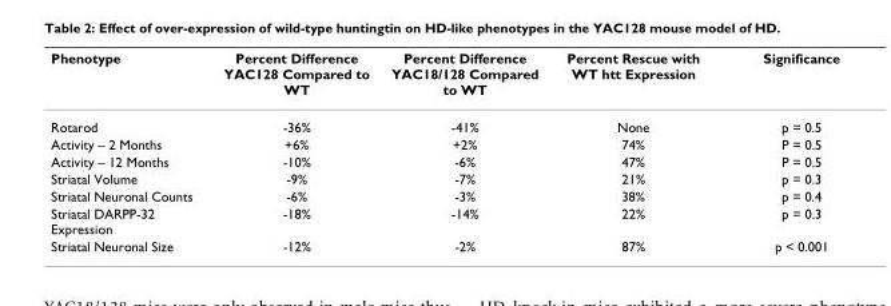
<table><thead><tr><td>Phenotype</td><td>Percent Difference YAC128 Compared to WT</td><td>Percent Difference YAC18/128 Compared to WT</td><td>Percent Rescue with WT htt Expression</td><td>Significance</td></tr></thead><tbody><tr><td>Rotarod</td><td>-36%</td><td>-41%</td><td>None</td><td>p = 0.5</td></tr><tr><td>Activity – 2 Months</td><td>+6%</td><td>+2%</td><td>74%</td><td>P = 0.5</td></tr><tr><td>Activity – 12 Months</td><td>-10%</td><td>-6%</td><td>47%</td><td>P = 0.5</td></tr><tr><td>Striatal Volume</td><td>-9%</td><td>-7%</td><td>21%</td><td>p = 0.3</td></tr><tr><td>Striatal Neuronal Counts</td><td>-6%</td><td>-3%</td><td>38%</td><td>p = 0.4</td></tr><tr><td>Striatal DARPP-32 Expression</td><td>-18%</td><td>-14%</td><td>22%</td><td>p = 0.3</td></tr><tr><td>Striatal Neuronal Size</td><td>-12%</td><td>-2%</td><td>87%</td><td>p &lt; 0.001</td></tr></tbody></table>